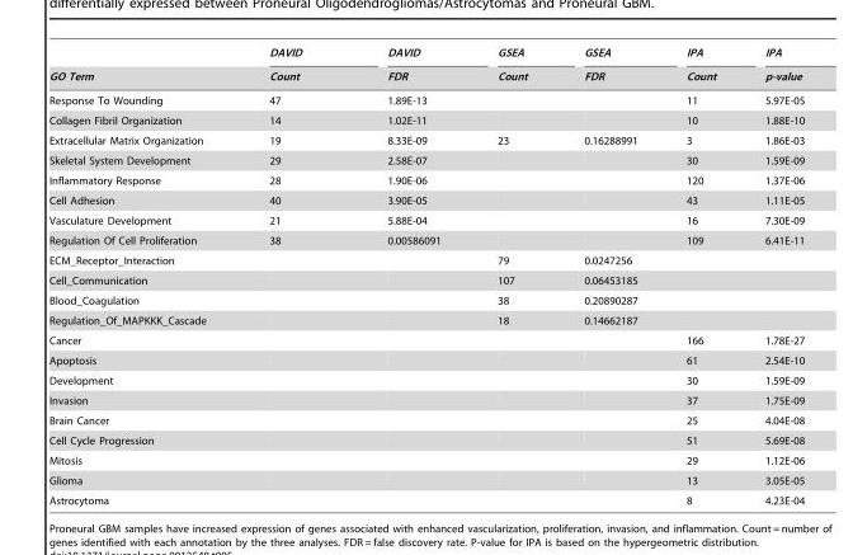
<table><thead><tr><td rowspan="2">GO Term</td><td rowspan="2">DAVID Count</td><td rowspan="2">DAVID FDR</td><td rowspan="2">GSEA Count</td><td rowspan="2">GSEA FDR</td><td rowspan="2">IPA Count</td><td rowspan="2">IPA p-value</td></tr><tr></tr></thead><tbody><tr><td>Response To Wounding</td><td>47</td><td>1.89E-13</td><td></td><td></td><td>11</td><td>5.97E-05</td></tr><tr><td>Collagen Fibril Organization</td><td>14</td><td>1.02E-11</td><td></td><td></td><td>10</td><td>1.88E-10</td></tr><tr><td>Extracellular Matrix Organization</td><td>19</td><td>8.33E-09</td><td>23</td><td>0.16288991</td><td>3</td><td>1.86E-03</td></tr><tr><td>Skeletal System Development</td><td>29</td><td>2.58E-07</td><td></td><td></td><td>30</td><td>1.59E-09</td></tr><tr><td>Inflammatory Response</td><td>28</td><td>1.90E-06</td><td></td><td></td><td>120</td><td>1.37E-06</td></tr><tr><td>Cell Adhesion</td><td>40</td><td>3.90E-05</td><td></td><td></td><td>43</td><td>1.11E-05</td></tr><tr><td>Vasculature Development</td><td>21</td><td>5.88E-04</td><td></td><td></td><td>16</td><td>7.30E-09</td></tr><tr><td>Regulation Of Cell Proliferation</td><td>38</td><td>0.00586091</td><td></td><td></td><td>109</td><td>6.41E-11</td></tr><tr><td>ECM_Receptor_Interaction</td><td></td><td></td><td>79</td><td>0.0247256</td><td></td><td></td></tr><tr><td>Cell_Communication</td><td></td><td></td><td>107</td><td>0.06453185</td><td></td><td></td></tr><tr><td>Blood_Coagulation</td><td></td><td></td><td>38</td><td>0.20890287</td><td></td><td></td></tr><tr><td>Regulation_Of_MAPKKK_Cascade</td><td></td><td></td><td>18</td><td>0.14662187</td><td></td><td></td></tr><tr><td>Cancer</td><td></td><td></td><td></td><td></td><td>166</td><td>1.78E-27</td></tr><tr><td>Apoptosis</td><td></td><td></td><td></td><td></td><td>61</td><td>2.54E-10</td></tr><tr><td>Development</td><td></td><td></td><td></td><td></td><td>30</td><td>1.59E-09</td></tr><tr><td>Invasion</td><td></td><td></td><td></td><td></td><td>37</td><td>1.75E-09</td></tr><tr><td>Brain Cancer</td><td></td><td></td><td></td><td></td><td>25</td><td>4.04E-08</td></tr><tr><td>Cell Cycle Progression</td><td></td><td></td><td></td><td></td><td>51</td><td>5.69E-08</td></tr><tr><td>Mitosis</td><td></td><td></td><td></td><td></td><td>29</td><td>1.12E-06</td></tr><tr><td>Glioma</td><td></td><td></td><td></td><td></td><td>13</td><td>3.05E-05</td></tr><tr><td>Astrocytoma</td><td></td><td></td><td></td><td></td><td>8</td><td>4.23E-04</td></tr></tbody></table>